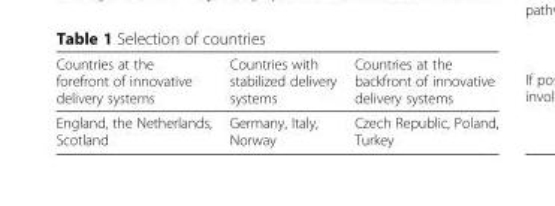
<table><thead><tr><td>Countries at the forefront of innovative delivery systems</td><td>Countries with stabilized delivery systems</td><td>Countries at the backfront of innovative delivery systems</td></tr></thead><tbody><tr><td>England, the Netherlands, Scotland</td><td>Germany, Italy, Norway</td><td>Czech Republic, Poland, Turkey</td></tr></tbody></table>